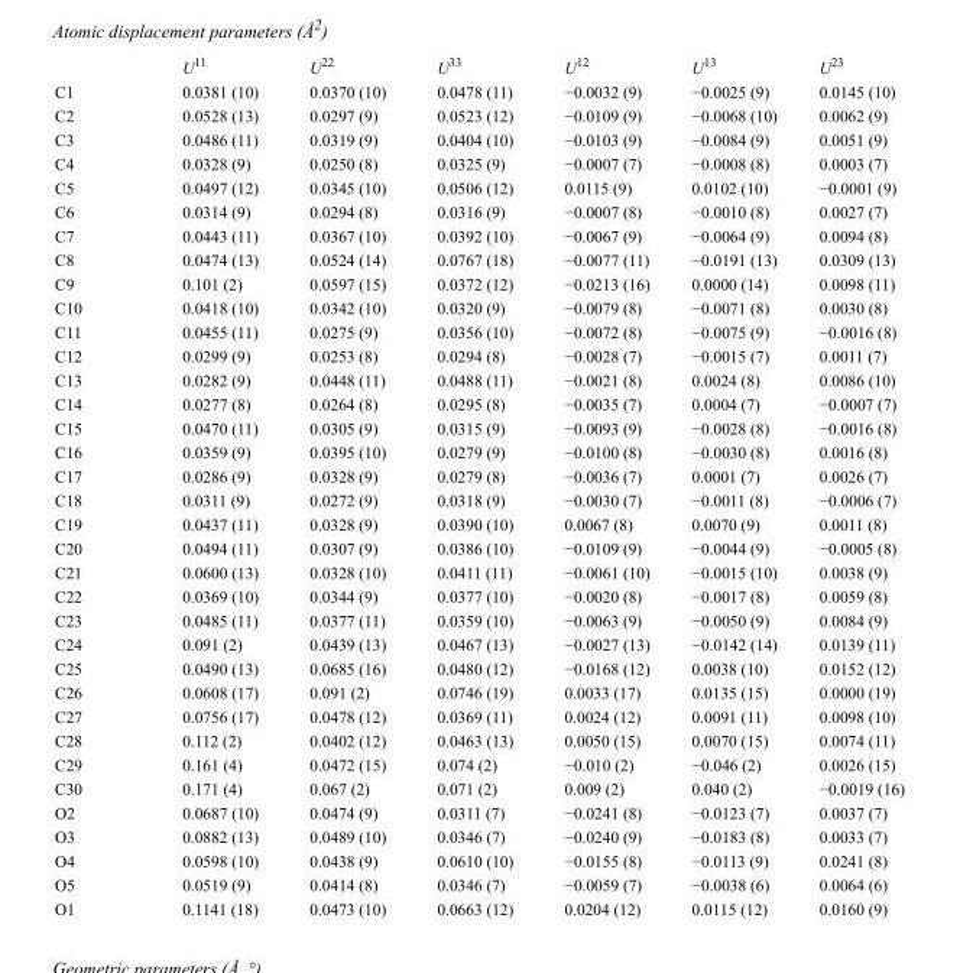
<table><thead><tr><td></td><td>U<sup>11</sup></td><td>U<sup>22</sup></td><td>U<sup>33</sup></td><td>U<sup>12</sup></td><td>U<sup>13</sup></td><td>U<sup>23</sup></td></tr></thead><tbody><tr><td>C1</td><td>0.0381 (10)</td><td>0.0370 (10)</td><td>0.0478 (11)</td><td>−0.0032 (9)</td><td>−0.0025 (9)</td><td>0.0145 (10)</td></tr><tr><td>C2</td><td>0.0528 (13)</td><td>0.0297 (9)</td><td>0.0523 (12)</td><td>−0.0109 (9)</td><td>−0.0068 (10)</td><td>0.0062 (9)</td></tr><tr><td>C3</td><td>0.0486 (11)</td><td>0.0319 (9)</td><td>0.0404 (10)</td><td>−0.0103 (9)</td><td>−0.0084 (9)</td><td>0.0051 (9)</td></tr><tr><td>C4</td><td>0.0328 (9)</td><td>0.0250 (8)</td><td>0.0325 (9)</td><td>−0.0007 (7)</td><td>−0.0008 (8)</td><td>0.0003 (7)</td></tr><tr><td>C5</td><td>0.0497 (12)</td><td>0.0345 (10)</td><td>0.0506 (12)</td><td>0.0115 (9)</td><td>0.0102 (10)</td><td>−0.0001 (9)</td></tr><tr><td>C6</td><td>0.0314 (9)</td><td>0.0294 (8)</td><td>0.0316 (9)</td><td>−0.0007 (8)</td><td>−0.0010 (8)</td><td>0.0027 (7)</td></tr><tr><td>C7</td><td>0.0443 (11)</td><td>0.0367 (10)</td><td>0.0392 (10)</td><td>−0.0067 (9)</td><td>−0.0064 (9)</td><td>0.0094 (8)</td></tr><tr><td>C8</td><td>0.0474 (13)</td><td>0.0524 (14)</td><td>0.0767 (18)</td><td>−0.0077 (11)</td><td>−0.0191 (13)</td><td>0.0309 (13)</td></tr><tr><td>C9</td><td>0.101 (2)</td><td>0.0597 (15)</td><td>0.0372 (12)</td><td>−0.0213 (16)</td><td>0.0000 (14)</td><td>0.0098 (11)</td></tr><tr><td>C10</td><td>0.0418 (10)</td><td>0.0342 (10)</td><td>0.0320 (9)</td><td>−0.0079 (8)</td><td>−0.0071 (8)</td><td>0.0030 (8)</td></tr><tr><td>C11</td><td>0.0455 (11)</td><td>0.0275 (9)</td><td>0.0356 (10)</td><td>−0.0072 (8)</td><td>−0.0075 (9)</td><td>−0.0016 (8)</td></tr><tr><td>C12</td><td>0.0299 (9)</td><td>0.0253 (8)</td><td>0.0294 (8)</td><td>−0.0028 (7)</td><td>−0.0015 (7)</td><td>0.0011 (7)</td></tr><tr><td>C13</td><td>0.0282 (9)</td><td>0.0448 (11)</td><td>0.0488 (11)</td><td>−0.0021 (8)</td><td>0.0024 (8)</td><td>0.0086 (10)</td></tr><tr><td>C14</td><td>0.0277 (8)</td><td>0.0264 (8)</td><td>0.0295 (8)</td><td>−0.0035 (7)</td><td>0.0004 (7)</td><td>−0.0007 (7)</td></tr><tr><td>C15</td><td>0.0470 (11)</td><td>0.0305 (9)</td><td>0.0315 (9)</td><td>−0.0093 (9)</td><td>−0.0028 (8)</td><td>−0.0016 (8)</td></tr><tr><td>C16</td><td>0.0359 (9)</td><td>0.0395 (10)</td><td>0.0279 (9)</td><td>−0.0100 (8)</td><td>−0.0030 (8)</td><td>0.0016 (8)</td></tr><tr><td>C17</td><td>0.0286 (9)</td><td>0.0328 (9)</td><td>0.0279 (8)</td><td>−0.0036 (7)</td><td>0.0001 (7)</td><td>0.0026 (7)</td></tr><tr><td>C18</td><td>0.0311 (9)</td><td>0.0272 (9)</td><td>0.0318 (9)</td><td>−0.0030 (7)</td><td>−0.0011 (8)</td><td>−0.0006 (7)</td></tr><tr><td>C19</td><td>0.0437 (11)</td><td>0.0328 (9)</td><td>0.0390 (10)</td><td>0.0067 (8)</td><td>0.0070 (9)</td><td>0.0011 (8)</td></tr><tr><td>C20</td><td>0.0494 (11)</td><td>0.0307 (9)</td><td>0.0386 (10)</td><td>−0.0109 (9)</td><td>−0.0044 (9)</td><td>−0.0005 (8)</td></tr><tr><td>C21</td><td>0.0600 (13)</td><td>0.0328 (10)</td><td>0.0411 (11)</td><td>−0.0061 (10)</td><td>−0.0015 (10)</td><td>0.0038 (9)</td></tr><tr><td>C22</td><td>0.0369 (10)</td><td>0.0344 (9)</td><td>0.0377 (10)</td><td>−0.0020 (8)</td><td>−0.0017 (8)</td><td>0.0059 (8)</td></tr><tr><td>C23</td><td>0.0485 (11)</td><td>0.0377 (11)</td><td>0.0359 (10)</td><td>−0.0063 (9)</td><td>−0.0050 (9)</td><td>0.0084 (9)</td></tr><tr><td>C24</td><td>0.091 (2)</td><td>0.0439 (13)</td><td>0.0467 (13)</td><td>−0.0027 (13)</td><td>−0.0142 (14)</td><td>0.0139 (11)</td></tr><tr><td>C25</td><td>0.0490 (13)</td><td>0.0685 (16)</td><td>0.0480 (12)</td><td>−0.0168 (12)</td><td>0.0038 (10)</td><td>0.0152 (12)</td></tr><tr><td>C26</td><td>0.0608 (17)</td><td>0.091 (2)</td><td>0.0746 (19)</td><td>0.0033 (17)</td><td>0.0135 (15)</td><td>0.0000 (19)</td></tr><tr><td>C27</td><td>0.0756 (17)</td><td>0.0478 (12)</td><td>0.0369 (11)</td><td>0.0024 (12)</td><td>0.0091 (11)</td><td>0.0098 (10)</td></tr><tr><td>C28</td><td>0.112 (2)</td><td>0.0402 (12)</td><td>0.0463 (13)</td><td>0.0050 (15)</td><td>0.0070 (15)</td><td>0.0074 (11)</td></tr><tr><td>C29</td><td>0.161 (4)</td><td>0.0472 (15)</td><td>0.074 (2)</td><td>−0.010 (2)</td><td>−0.046 (2)</td><td>0.0026 (15)</td></tr><tr><td>C30</td><td>0.171 (4)</td><td>0.067 (2)</td><td>0.071 (2)</td><td>0.009 (2)</td><td>0.040 (2)</td><td>−0.0019 (16)</td></tr><tr><td>O2</td><td>0.0687 (10)</td><td>0.0474 (9)</td><td>0.0311 (7)</td><td>−0.0241 (8)</td><td>−0.0123 (7)</td><td>0.0037 (7)</td></tr><tr><td>O3</td><td>0.0882 (13)</td><td>0.0489 (10)</td><td>0.0346 (7)</td><td>−0.0240 (9)</td><td>−0.0183 (8)</td><td>0.0033 (7)</td></tr><tr><td>O4</td><td>0.0598 (10)</td><td>0.0438 (9)</td><td>0.0610 (10)</td><td>−0.0155 (8)</td><td>−0.0113 (9)</td><td>0.0241 (8)</td></tr><tr><td>O5</td><td>0.0519 (9)</td><td>0.0414 (8)</td><td>0.0346 (7)</td><td>−0.0059 (7)</td><td>−0.0038 (6)</td><td>0.0064 (6)</td></tr><tr><td>O1</td><td>0.1141 (18)</td><td>0.0473 (10)</td><td>0.0663 (12)</td><td>0.0204 (12)</td><td>0.0115 (12)</td><td>0.0160 (9)</td></tr></tbody></table>